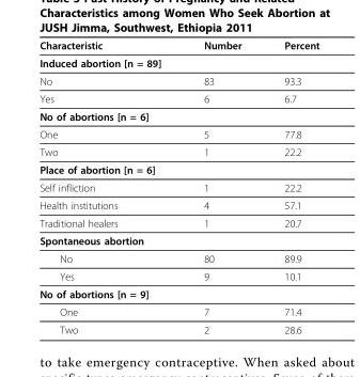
<table><thead><tr><td>Characteristic</td><td>Number</td><td>Percent</td></tr></thead><tbody><tr><td colspan="3">Induced abortion [n = 89]</td></tr><tr><td>No</td><td>83</td><td>93.3</td></tr><tr><td>Yes</td><td>6</td><td>6.7</td></tr><tr><td colspan="3">No of abortions [n = 6]</td></tr><tr><td>One</td><td>5</td><td>77.8</td></tr><tr><td>Two</td><td>1</td><td>22.2</td></tr><tr><td colspan="3">Place of abortion [n = 6]</td></tr><tr><td>Self infliction</td><td>1</td><td>22.2</td></tr><tr><td>Health institutions</td><td>4</td><td>57.1</td></tr><tr><td>Traditional healers</td><td>1</td><td>20.7</td></tr><tr><td colspan="3">Spontaneous abortion</td></tr><tr><td>No</td><td>80</td><td>89.9</td></tr><tr><td>Yes</td><td>9</td><td>10.1</td></tr><tr><td colspan="3">No of abortions [n = 9]</td></tr><tr><td>One</td><td>7</td><td>71.4</td></tr><tr><td>Two</td><td>2</td><td>28.6</td></tr></tbody></table>